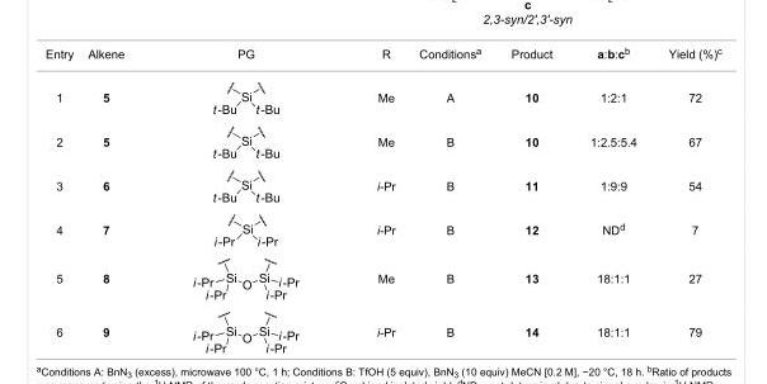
<table><tbody><tr><td>Entry</td><td>Alkene</td><td>PG</td><td>R</td><td>Conditions<sup>a</sup></td><td>Product</td><td>a:b:c<sup>b</sup></td><td>Yield (%)<sup>c</sup></td></tr><tr><td>1</td><td>5</td><td></td><td>Me</td><td>A</td><td>10</td><td>1:2:1</td><td>72</td></tr><tr><td>2</td><td>5</td><td></td><td>Me</td><td>B</td><td>10</td><td>1:2.5:5.4</td><td>67</td></tr><tr><td>3</td><td>6</td><td></td><td>i-Pr</td><td>B</td><td>11</td><td>1:9:9</td><td>54</td></tr><tr><td>4</td><td>7</td><td></td><td>i-Pr</td><td>B</td><td>12</td><td>ND<sup>d</sup></td><td>7</td></tr><tr><td>5</td><td>8</td><td></td><td>Me</td><td>B</td><td>13</td><td>18:1:1</td><td>27</td></tr><tr><td>6</td><td>9</td><td></td><td>i-Pr</td><td>B</td><td>14</td><td>18:1:1</td><td>79</td></tr></tbody></table>